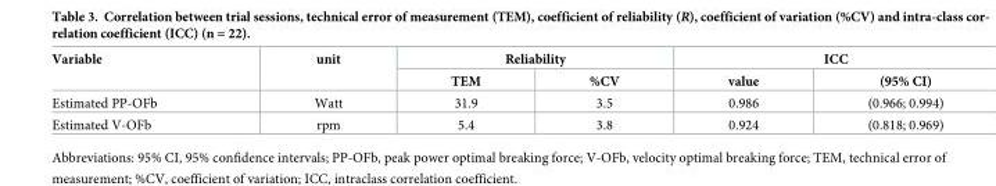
<table><thead><tr><td rowspan="2">Variable</td><td rowspan="2">unit</td><td colspan="2">Reliability</td><td colspan="2">ICC</td></tr><tr><td>TEM</td><td>%CV</td><td>value</td><td>(95% CI)</td></tr></thead><tbody><tr><td>Estimated PP-OFb</td><td>Watt</td><td>31.9</td><td>3.5</td><td>0.986</td><td>(0.966; 0.994)</td></tr><tr><td>Estimated V-OFb</td><td>rpm</td><td>5.4</td><td>3.8</td><td>0.924</td><td>(0.818; 0.969)</td></tr></tbody></table>